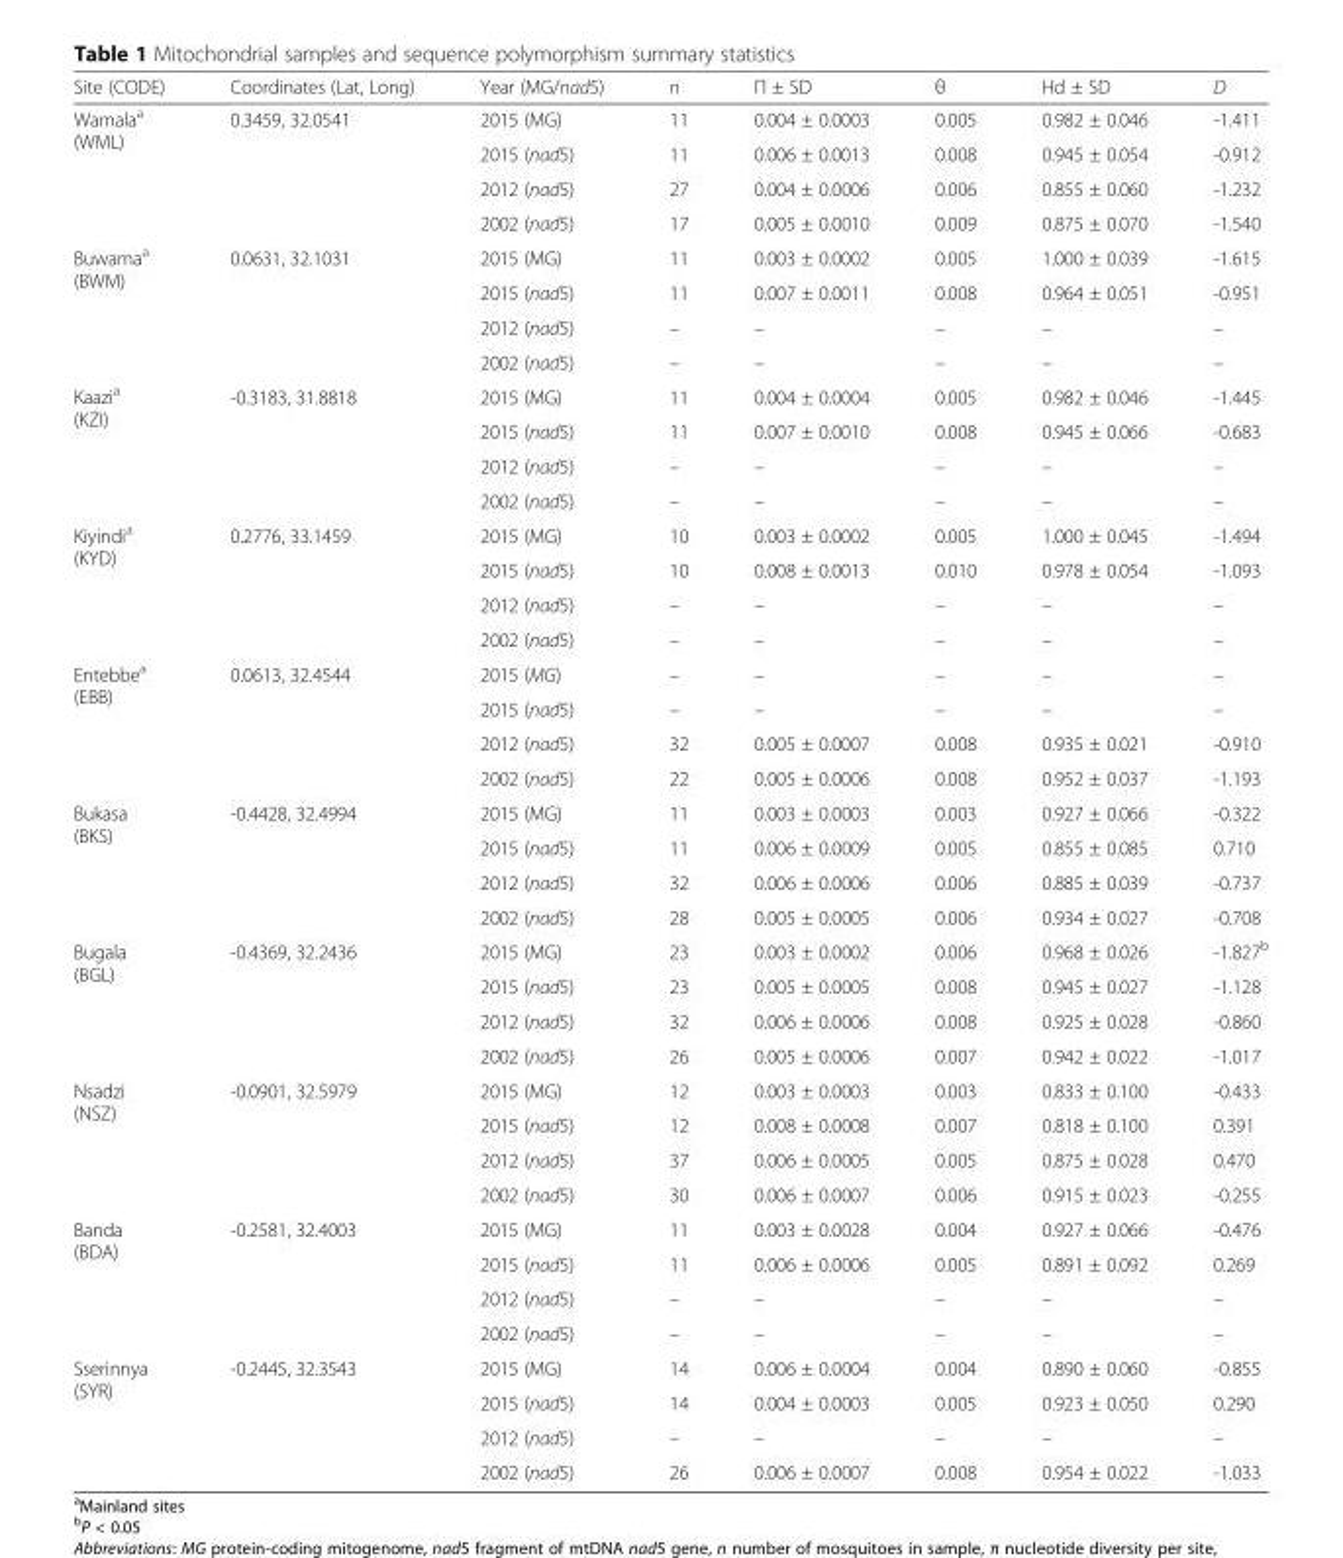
<table><thead><tr><td>Site (CODE)</td><td>Coordinates (Lat, Long)</td><td>Year (MG/nad5)</td><td>n</td><td>Π ± SD</td><td>θ</td><td>Hd ± SD</td><td>D</td></tr></thead><tbody><tr><td rowspan="4">Wamala<sup>a</sup> (WML)</td><td rowspan="4">0.3459, 32.0541</td><td>2015 (MG)</td><td>11</td><td>0.004 ± 0.0003</td><td>0.005</td><td>0.982 ± 0.046</td><td>-1.411</td></tr><tr><td>2015 (nad5)</td><td>11</td><td>0.006 ± 0.0013</td><td>0.008</td><td>0.945 ± 0.054</td><td>-0.912</td></tr><tr><td>2012 (nad5)</td><td>27</td><td>0.004 ± 0.0006</td><td>0.006</td><td>0.855 ± 0.060</td><td>-1.232</td></tr><tr><td>2002 (nad5)</td><td>17</td><td>0.005 ± 0.0010</td><td>0.009</td><td>0.875 ± 0.070</td><td>-1.540</td></tr><tr><td rowspan="4">Buwama<sup>a</sup> (BWM)</td><td rowspan="4">0.0631, 32.1031</td><td>2015 (MG)</td><td>11</td><td>0.003 ± 0.0002</td><td>0.005</td><td>1.000 ± 0.039</td><td>-1.615</td></tr><tr><td>2015 (nad5)</td><td>11</td><td>0.007 ± 0.0011</td><td>0.008</td><td>0.964 ± 0.051</td><td>-0.951</td></tr><tr><td>2012 (nad5)</td><td>–</td><td>–</td><td>–</td><td>–</td><td>–</td></tr><tr><td>2002 (nad5)</td><td>–</td><td>–</td><td>–</td><td>–</td><td>–</td></tr><tr><td rowspan="4">Kaazi<sup>a</sup> (KZI)</td><td rowspan="4">-0.3183, 31.8818</td><td>2015 (MG)</td><td>11</td><td>0.004 ± 0.0004</td><td>0.005</td><td>0.982 ± 0.046</td><td>-1.445</td></tr><tr><td>2015 (nad5)</td><td>11</td><td>0.007 ± 0.0010</td><td>0.008</td><td>0.945 ± 0.066</td><td>-0.683</td></tr><tr><td>2012 (nad5)</td><td>–</td><td>–</td><td>–</td><td>–</td><td>–</td></tr><tr><td>2002 (nad5)</td><td>–</td><td>–</td><td>–</td><td>–</td><td>–</td></tr><tr><td rowspan="4">Kiyindi<sup>a</sup> (KYD)</td><td rowspan="4">0.2776, 33.1459</td><td>2015 (MG)</td><td>10</td><td>0.003 ± 0.0002</td><td>0.005</td><td>1.000 ± 0.045</td><td>-1.494</td></tr><tr><td>2015 (nad5)</td><td>10</td><td>0.008 ± 0.0013</td><td>0.010</td><td>0.978 ± 0.054</td><td>-1.093</td></tr><tr><td>2012 (nad5)</td><td>–</td><td>–</td><td>–</td><td>–</td><td>–</td></tr><tr><td>2002 (nad5)</td><td>–</td><td>–</td><td>–</td><td>–</td><td>–</td></tr><tr><td rowspan="4">Entebbe<sup>a</sup> (EBB)</td><td rowspan="4">0.0613, 32.4544</td><td>2015 (MG)</td><td>–</td><td>–</td><td>–</td><td>–</td><td>–</td></tr><tr><td>2015 (nad5)</td><td>–</td><td>–</td><td>–</td><td>–</td><td>–</td></tr><tr><td>2012 (nad5)</td><td>32</td><td>0.005 ± 0.0007</td><td>0.008</td><td>0.935 ± 0.021</td><td>-0.910</td></tr><tr><td>2002 (nad5)</td><td>22</td><td>0.005 ± 0.0006</td><td>0.008</td><td>0.952 ± 0.037</td><td>-1.193</td></tr><tr><td rowspan="4">Bukasa (BKS)</td><td rowspan="4">-0.4428, 32.4994</td><td>2015 (MG)</td><td>11</td><td>0.003 ± 0.0003</td><td>0.003</td><td>0.927 ± 0.066</td><td>-0.322</td></tr><tr><td>2015 (nad5)</td><td>11</td><td>0.006 ± 0.0009</td><td>0.005</td><td>0.855 ± 0.085</td><td>0.710</td></tr><tr><td>2012 (nad5)</td><td>32</td><td>0.006 ± 0.0006</td><td>0.006</td><td>0.885 ± 0.039</td><td>-0.737</td></tr><tr><td>2002 (nad5)</td><td>28</td><td>0.005 ± 0.0005</td><td>0.006</td><td>0.934 ± 0.027</td><td>-0.708</td></tr><tr><td rowspan="4">Bugala (BGL)</td><td rowspan="4">-0.4369, 32.2436</td><td>2015 (MG)</td><td>23</td><td>0.003 ± 0.0002</td><td>0.006</td><td>0.968 ± 0.026</td><td>-1.827<sup>b</sup></td></tr><tr><td>2015 (nad5)</td><td>23</td><td>0.005 ± 0.0005</td><td>0.008</td><td>0.945 ± 0.027</td><td>-1.128</td></tr><tr><td>2012 (nad5)</td><td>32</td><td>0.006 ± 0.0006</td><td>0.008</td><td>0.925 ± 0.028</td><td>-0.860</td></tr><tr><td>2002 (nad5)</td><td>26</td><td>0.005 ± 0.0006</td><td>0.007</td><td>0.942 ± 0.022</td><td>-1.017</td></tr><tr><td rowspan="4">Nsadzi (NSZ)</td><td rowspan="4">-0.0901, 32.5979</td><td>2015 (MG)</td><td>12</td><td>0.003 ± 0.0003</td><td>0.003</td><td>0.833 ± 0.100</td><td>-0.433</td></tr><tr><td>2015 (nad5)</td><td>12</td><td>0.008 ± 0.0008</td><td>0.007</td><td>0.818 ± 0.100</td><td>0.391</td></tr><tr><td>2012 (nad5)</td><td>37</td><td>0.006 ± 0.0005</td><td>0.005</td><td>0.875 ± 0.028</td><td>0.470</td></tr><tr><td>2002 (nad5)</td><td>30</td><td>0.006 ± 0.0007</td><td>0.006</td><td>0.915 ± 0.023</td><td>-0.255</td></tr><tr><td rowspan="4">Banda (BDA)</td><td rowspan="4">-0.2581, 32.4003</td><td>2015 (MG)</td><td>11</td><td>0.003 ± 0.0028</td><td>0.004</td><td>0.927 ± 0.066</td><td>-0.476</td></tr><tr><td>2015 (nad5)</td><td>11</td><td>0.006 ± 0.0006</td><td>0.005</td><td>0.891 ± 0.092</td><td>0.269</td></tr><tr><td>2012 (nad5)</td><td>–</td><td>–</td><td>–</td><td>–</td><td>–</td></tr><tr><td>2002 (nad5)</td><td>–</td><td>–</td><td>–</td><td>–</td><td>–</td></tr><tr><td rowspan="4">Sserinnya (SYR)</td><td rowspan="4">-0.2445, 32.3543</td><td>2015 (MG)</td><td>14</td><td>0.006 ± 0.0004</td><td>0.004</td><td>0.890 ± 0.060</td><td>-0.855</td></tr><tr><td>2015 (nad5)</td><td>14</td><td>0.004 ± 0.0003</td><td>0.005</td><td>0.923 ± 0.050</td><td>0.290</td></tr><tr><td>2012 (nad5)</td><td>–</td><td>–</td><td>–</td><td>–</td><td>–</td></tr><tr><td>2002 (nad5)</td><td>26</td><td>0.006 ± 0.0007</td><td>0.008</td><td>0.954 ± 0.022</td><td>-1.033</td></tr></tbody></table>